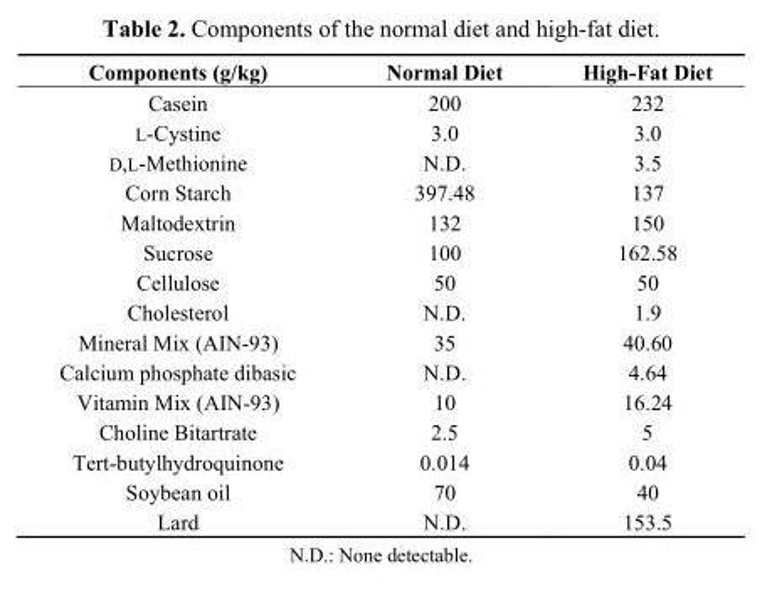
<table><thead><tr><td>Components (g/kg)</td><td>Normal Diet</td><td>High-Fat Diet</td></tr></thead><tbody><tr><td>Casein</td><td>200</td><td>232</td></tr><tr><td>L-Cystine</td><td>3.0</td><td>3.0</td></tr><tr><td>D,L-Methionine</td><td>N.D.</td><td>3.5</td></tr><tr><td>Corn Starch</td><td>397.48</td><td>137</td></tr><tr><td>Maltodextrin</td><td>132</td><td>150</td></tr><tr><td>Sucrose</td><td>100</td><td>162.58</td></tr><tr><td>Cellulose</td><td>50</td><td>50</td></tr><tr><td>Cholesterol</td><td>N.D.</td><td>1.9</td></tr><tr><td>Mineral Mix (AIN-93)</td><td>35</td><td>40.60</td></tr><tr><td>Calcium phosphate dibasic</td><td>N.D.</td><td>4.64</td></tr><tr><td>Vitamin Mix (AIN-93)</td><td>10</td><td>16.24</td></tr><tr><td>Choline Bitartrate</td><td>2.5</td><td>5</td></tr><tr><td>Tert-butylhydroquinone</td><td>0.014</td><td>0.04</td></tr><tr><td>Soybean oil</td><td>70</td><td>40</td></tr><tr><td>Lard</td><td>N.D.</td><td>153.5</td></tr></tbody></table>